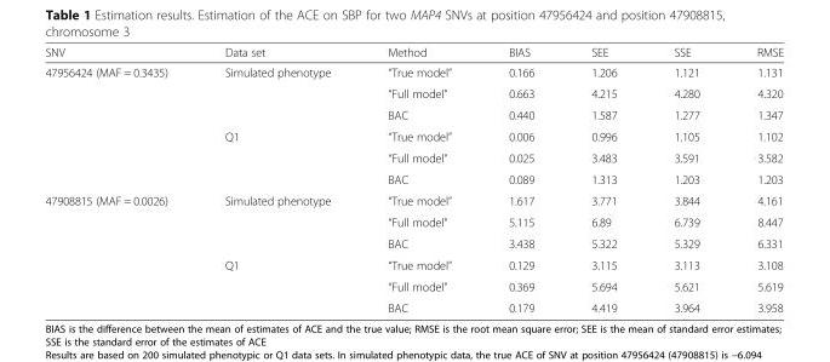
<table><thead><tr><td>SNV</td><td>Data set</td><td>Method</td><td>BIAS</td><td>SEE</td><td>SSE</td><td>RMSE</td></tr></thead><tbody><tr><td rowspan="6">47956424 (MAF = 0.3435)</td><td rowspan="3">Simulated phenotype</td><td>“True model”</td><td>0.166</td><td>1.206</td><td>1.121</td><td>1.131</td></tr><tr><td>“Full model”</td><td>0.663</td><td>4.215</td><td>4.280</td><td>4.320</td></tr><tr><td>BAC</td><td>0.440</td><td>1.587</td><td>1.277</td><td>1.347</td></tr><tr><td rowspan="3">Q1</td><td>“True model”</td><td>0.006</td><td>0.996</td><td>1.105</td><td>1.102</td></tr><tr><td>“Full model”</td><td>0.025</td><td>3.483</td><td>3.591</td><td>3.582</td></tr><tr><td>BAC</td><td>0.089</td><td>1.313</td><td>1.203</td><td>1.203</td></tr><tr><td rowspan="6">47908815 (MAF = 0.0026)</td><td rowspan="3">Simulated phenotype</td><td>“True model”</td><td>1.617</td><td>3.771</td><td>3.844</td><td>4.161</td></tr><tr><td>“Full model”</td><td>5.115</td><td>6.89</td><td>6.739</td><td>8.447</td></tr><tr><td>BAC</td><td>3.438</td><td>5.322</td><td>5.329</td><td>6.331</td></tr><tr><td rowspan="3">Q1</td><td>“True model”</td><td>0.129</td><td>3.115</td><td>3.113</td><td>3.108</td></tr><tr><td>“Full model”</td><td>0.369</td><td>5.694</td><td>5.621</td><td>5.619</td></tr><tr><td>BAC</td><td>0.179</td><td>4.419</td><td>3.964</td><td>3.958</td></tr></tbody></table>